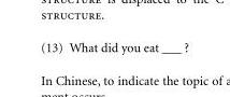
<table><tbody><tr><td>(13)</td><td>What did you eat ___ ?</td></tr></tbody></table>